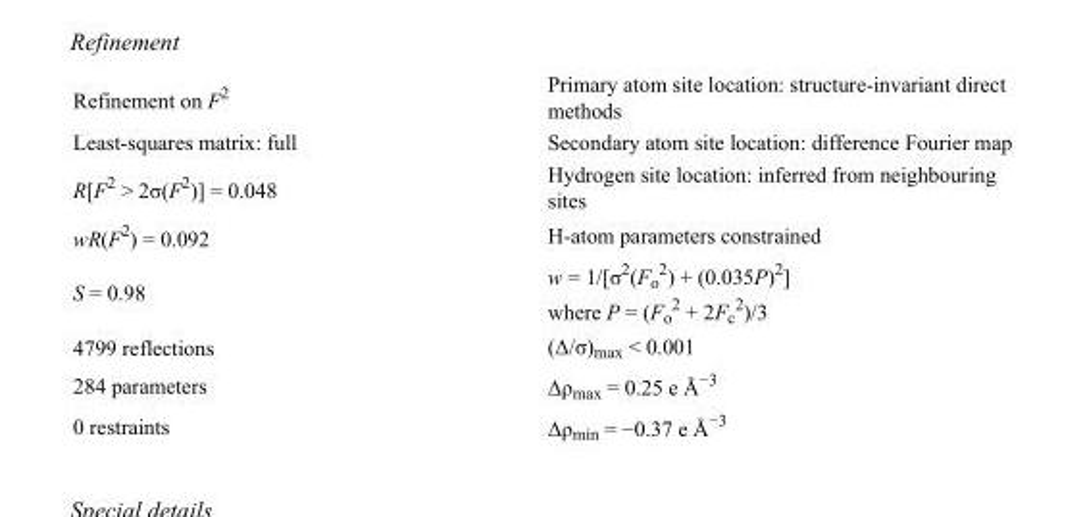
<table><tbody><tr><td>Refinement on F<sup>2</sup></td><td>Primary atom site location: structure-invariant direct methods</td></tr><tr><td>Least-squares matrix: full</td><td>Secondary atom site location: difference Fourier map</td></tr><tr><td>R[F<sup>2</sup> &gt; 2σ(F<sup>2</sup>)] = 0.048</td><td>Hydrogen site location: inferred from neighbouring sites</td></tr><tr><td>wR(F<sup>2</sup>) = 0.092</td><td>H-atom parameters constrained</td></tr><tr><td>S = 0.98</td><td>w = 1/[σ<sup>2</sup>(F<sub>o</sub> <sup>2</sup>) + (0.035P)<sup>2</sup>] where P = (F<sub>o</sub> <sup>2</sup> + 2F<sub>c</sub> <sup>2</sup>)/3</td></tr><tr><td>4799 reflections</td><td>(Δ/σ)<sub>max</sub> &lt; 0.001</td></tr><tr><td>284 parameters</td><td>Δρ<sub>max</sub> = 0.25 e Å<sup>−3</sup></td></tr><tr><td>0 restraints</td><td>Δρ<sub>min</sub> = −0.37 e Å<sup>−3</sup></td></tr></tbody></table>